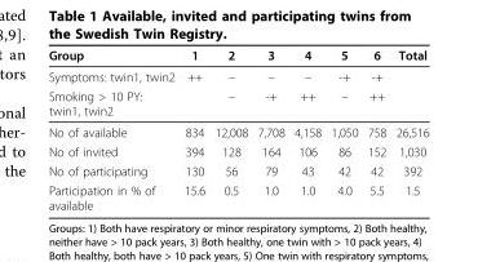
<table><thead><tr><td>Group</td><td>1</td><td>2</td><td>3</td><td>4</td><td>5</td><td>6</td><td>Total</td></tr></thead><tbody><tr><td>Symptoms: twin1, twin2</td><td>++</td><td>–</td><td>–</td><td>–</td><td>-+</td><td>-+</td><td></td></tr><tr><td>Smoking &gt; 10 PY: twin1, twin2</td><td></td><td>–</td><td>-+</td><td>++</td><td>–</td><td>++</td><td></td></tr><tr><td>No of available</td><td>834</td><td>12,008</td><td>7,708</td><td>4,158</td><td>1,050</td><td>758</td><td>26,516</td></tr><tr><td>No of invited</td><td>394</td><td>128</td><td>164</td><td>106</td><td>86</td><td>152</td><td>1,030</td></tr><tr><td>No of participating</td><td>130</td><td>56</td><td>79</td><td>43</td><td>42</td><td>42</td><td>392</td></tr><tr><td>Participation in % of available</td><td>15.6</td><td>0.5</td><td>1.0</td><td>1.0</td><td>4.0</td><td>5.5</td><td>1.5</td></tr></tbody></table>